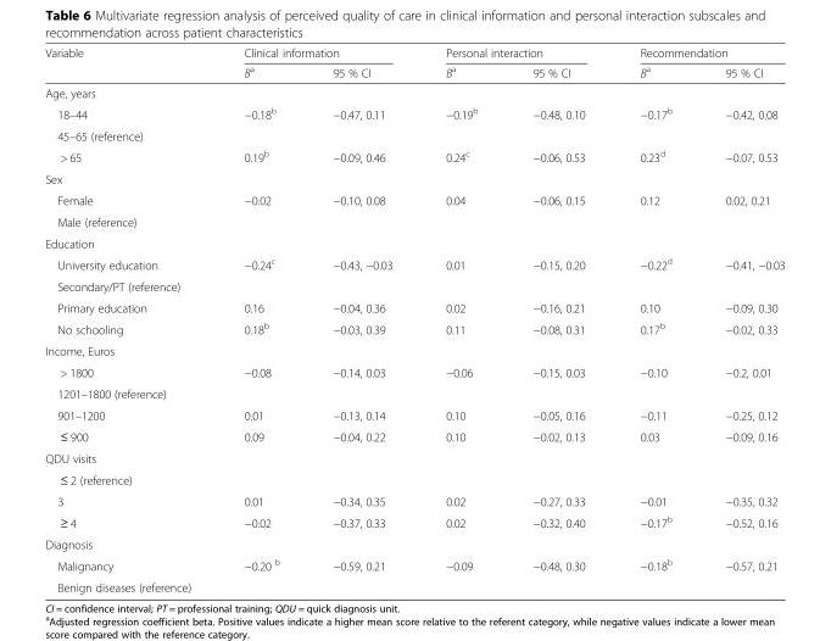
<table><thead><tr><td rowspan="2">Variable</td><td colspan="2">Clinical information</td><td colspan="2">Personal interaction</td><td colspan="2">Recommendation</td></tr><tr><td>B<sup>a</sup></td><td>95 % CI</td><td>B<sup>a</sup></td><td>95 % CI</td><td>B<sup>a</sup></td><td>95 % CI</td></tr></thead><tbody><tr><td colspan="7">Age, years</td></tr><tr><td>18–44</td><td>−0.18<sup>b</sup></td><td>−0.47, 0.11</td><td>−0.19<sup>b</sup></td><td>−0.48, 0.10</td><td>−0.17<sup>b</sup></td><td>−0.42, 0.08</td></tr><tr><td colspan="7">45–65 (reference)</td></tr><tr><td>&gt; 65</td><td>0.19<sup>b</sup></td><td>−0.09, 0.46</td><td>0.24<sup>c</sup></td><td>−0.06, 0.53</td><td>0.23<sup>d</sup></td><td>−0.07, 0.53</td></tr><tr><td colspan="7">Sex</td></tr><tr><td>Female</td><td>−0.02</td><td>−0.10, 0.08</td><td>0.04</td><td>−0.06, 0.15</td><td>0.12</td><td>0.02, 0.21</td></tr><tr><td colspan="7">Male (reference)</td></tr><tr><td colspan="7">Education</td></tr><tr><td>University education</td><td>−0.24<sup>c</sup></td><td>−0.43, −0.03</td><td>0.01</td><td>−0.15, 0.20</td><td>−0.22<sup>d</sup></td><td>−0.41, −0.03</td></tr><tr><td colspan="7">Secondary/PT (reference)</td></tr><tr><td>Primary education</td><td>0.16</td><td>−0.04, 0.36</td><td>0.02</td><td>−0.16, 0.21</td><td>0.10</td><td>−0.09, 0.30</td></tr><tr><td>No schooling</td><td>0.18<sup>b</sup></td><td>−0.03, 0.39</td><td>0.11</td><td>−0.08, 0.31</td><td>0.17<sup>b</sup></td><td>−0.02, 0.33</td></tr><tr><td colspan="7">Income, Euros</td></tr><tr><td>&gt; 1800</td><td>−0.08</td><td>−0.14, 0.03</td><td>−0.06</td><td>−0.15, 0.03</td><td>−0.10</td><td>−0.2, 0.01</td></tr><tr><td colspan="7">1201–1800 (reference)</td></tr><tr><td>901–1200</td><td>0.01</td><td>−0.13, 0.14</td><td>0.10</td><td>−0.05, 0.16</td><td>−0.11</td><td>−0.25, 0.12</td></tr><tr><td>≤ 900</td><td>0.09</td><td>−0.04, 0.22</td><td>0.10</td><td>−0.02, 0.13</td><td>0.03</td><td>−0.09, 0.16</td></tr><tr><td colspan="7">QDU visits</td></tr><tr><td colspan="7">≤ 2 (reference)</td></tr><tr><td>3</td><td>0.01</td><td>−0.34, 0.35</td><td>0.02</td><td>−0.27, 0.33</td><td>−0.01</td><td>−0.35, 0.32</td></tr><tr><td>≥ 4</td><td>−0.02</td><td>−0.37, 0.33</td><td>0.02</td><td>−0.32, 0.40</td><td>−0.17<sup>b</sup></td><td>−0.52, 0.16</td></tr><tr><td colspan="7">Diagnosis</td></tr><tr><td>Malignancy</td><td>−0.20 <sup>b</sup></td><td>−0.59, 0.21</td><td>−0.09</td><td>−0.48, 0.30</td><td>−0.18<sup>b</sup></td><td>−0.57, 0.21</td></tr><tr><td>Benign diseases (reference)</td><td></td><td></td><td></td><td></td><td></td><td></td></tr></tbody></table>